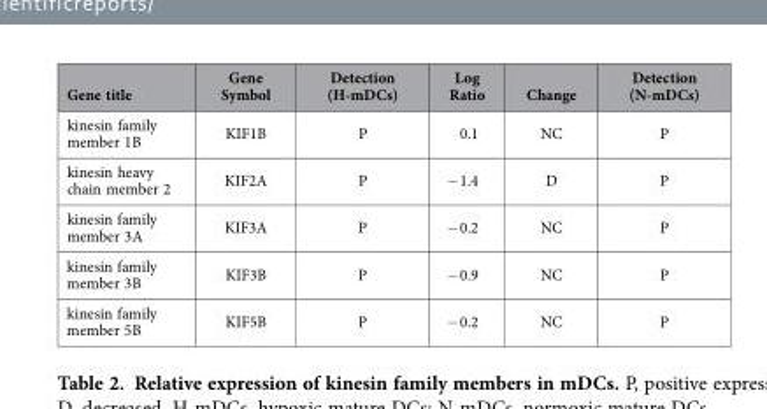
<table><thead><tr><td>Gene title</td><td>Gene Symbol</td><td>Detection (H-mDCs)</td><td>Log Ratio</td><td>Change</td><td>Detection (N-mDCs)</td></tr></thead><tbody><tr><td>kinesin family member 1B</td><td>KIF1B</td><td>P</td><td>0.1</td><td>NC</td><td>P</td></tr><tr><td>kinesin heavy chain member 2</td><td>KIF2A</td><td>P</td><td>− 1.4</td><td>D</td><td>P</td></tr><tr><td>kinesin family member 3A</td><td>KIF3A</td><td>P</td><td>− 0.2</td><td>NC</td><td>P</td></tr><tr><td>kinesin family member 3B</td><td>KIF3B</td><td>P</td><td>− 0.9</td><td>NC</td><td>P</td></tr><tr><td>kinesin family member 5B</td><td>KIF5B</td><td>P</td><td>− 0.2</td><td>NC</td><td>P</td></tr></tbody></table>